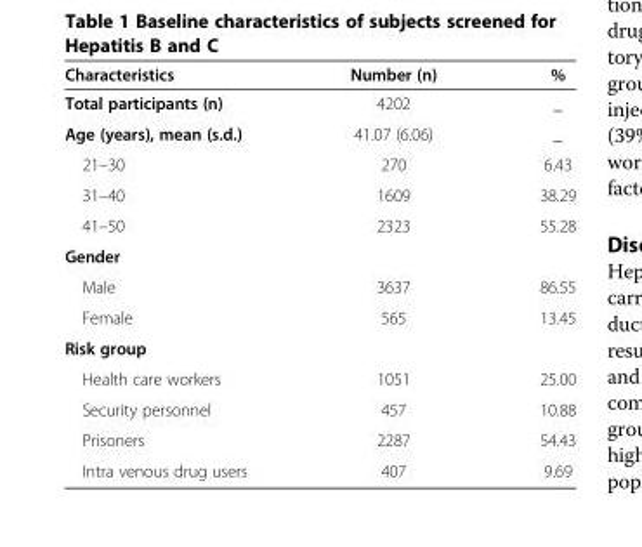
<table><thead><tr><td>Characteristics</td><td>Number (n)</td><td>%</td></tr></thead><tbody><tr><td>Total participants (n)</td><td>4202</td><td>_</td></tr><tr><td>Age (years), mean (s.d.)</td><td>41.07 (6.06)</td><td>_</td></tr><tr><td>21–30</td><td>270</td><td>6.43</td></tr><tr><td>31–40</td><td>1609</td><td>38.29</td></tr><tr><td>41–50</td><td>2323</td><td>55.28</td></tr><tr><td colspan="3">Gender</td></tr><tr><td>Male</td><td>3637</td><td>86.55</td></tr><tr><td>Female</td><td>565</td><td>13.45</td></tr><tr><td colspan="3">Risk group</td></tr><tr><td>Health care workers</td><td>1051</td><td>25.00</td></tr><tr><td>Security personnel</td><td>457</td><td>10.88</td></tr><tr><td>Prisoners</td><td>2287</td><td>54.43</td></tr><tr><td>Intra venous drug users</td><td>407</td><td>9.69</td></tr></tbody></table>